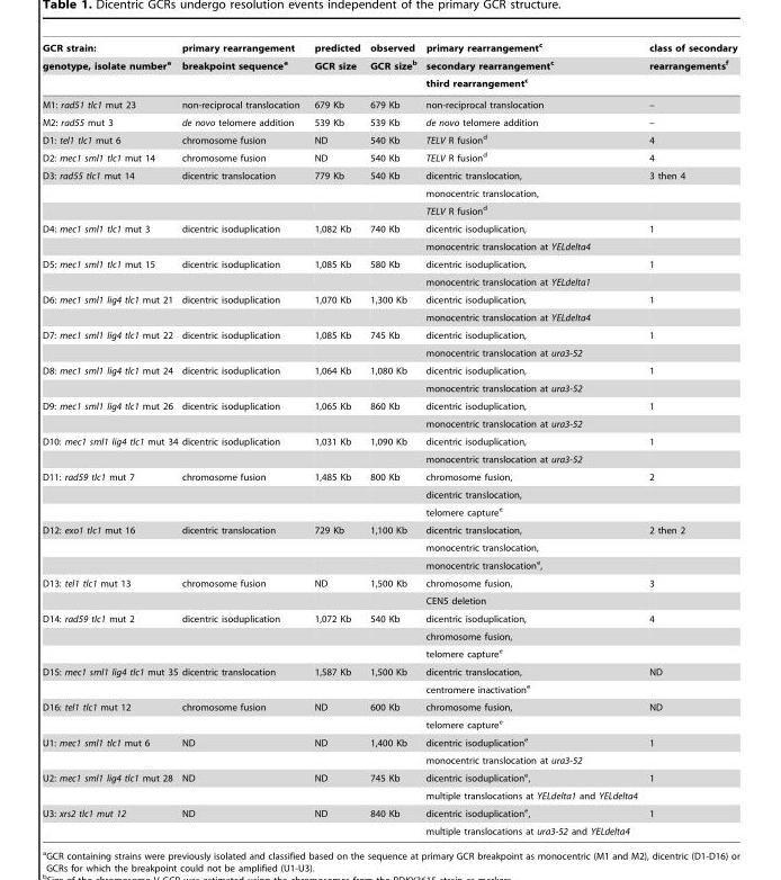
<table><thead><tr><td rowspan="3">GCR strain: genotype, isolate number<sup>a</sup></td><td rowspan="3">primary rearrangement breakpoint sequence<sup>a</sup></td><td rowspan="3">predicted GCR size</td><td rowspan="3">observed GCR size<sup>b</sup></td><td rowspan="3">primary rearrangement<sup>c</sup> secondary rearrangement<sup>c</sup> third rearrangement<sup>c</sup></td><td rowspan="3">class of secondary rearrangements<sup>f</sup></td></tr><tr></tr><tr></tr></thead><tbody><tr><td>M1: rad51 tlc1 mut 23</td><td>non-reciprocal translocation</td><td>679 Kb</td><td>679 Kb</td><td>non-reciprocal translocation</td><td>–</td></tr><tr><td>M2: rad55 mut 3</td><td>de novo telomere addition</td><td>539 Kb</td><td>539 Kb</td><td>de novo telomere addition</td><td>–</td></tr><tr><td>D1: tel1 tlc1 mut 6</td><td>chromosome fusion</td><td>ND</td><td>540 Kb</td><td>TELV R fusion<sup>d</sup></td><td>4</td></tr><tr><td>D2: mec1 sml1 tlc1 mut 14</td><td>chromosome fusion</td><td>ND</td><td>540 Kb</td><td>TELV R fusion<sup>d</sup></td><td>4</td></tr><tr><td rowspan="3">D3: rad55 tlc1 mut 14</td><td>dicentric translocation</td><td>779 Kb</td><td>540 Kb</td><td>dicentric translocation,</td><td>3 then 4</td></tr><tr><td></td><td></td><td></td><td>monocentric translocation,</td><td></td></tr><tr><td></td><td></td><td></td><td>TELV R fusion<sup>d</sup></td><td></td></tr><tr><td rowspan="2">D4: mec1 sml1 tlc1 mut 3</td><td>dicentric isoduplication</td><td>1,082 Kb</td><td>740 Kb</td><td>dicentric isoduplication,</td><td>1</td></tr><tr><td></td><td></td><td></td><td>monocentric translocation at YELdelta4</td><td></td></tr><tr><td rowspan="2">D5: mec1 sml1 tlc1 mut 15</td><td>dicentric isoduplication</td><td>1,085 Kb</td><td>580 Kb</td><td>dicentric isoduplication,</td><td>1</td></tr><tr><td></td><td></td><td></td><td>monocentric translocation at YELdelta1</td><td></td></tr><tr><td rowspan="2">D6: mec1 sml1 lig4 tlc1 mut 21</td><td>dicentric isoduplication</td><td>1,070 Kb</td><td>1,300 Kb</td><td>dicentric isoduplication,</td><td>1</td></tr><tr><td></td><td></td><td></td><td>monocentric translocation at YELdelta4</td><td></td></tr><tr><td rowspan="2">D7: mec1 sml1 lig4 tlc1 mut 22</td><td>dicentric isoduplication</td><td>1,085 Kb</td><td>745 Kb</td><td>dicentric isoduplication,</td><td>1</td></tr><tr><td></td><td></td><td></td><td>monocentric translocation at ura3-52</td><td></td></tr><tr><td rowspan="2">D8: mec1 sml1 lig4 tlc1 mut 24</td><td>dicentric isoduplication</td><td>1,064 Kb</td><td>1,080 Kb</td><td>dicentric isoduplication,</td><td>1</td></tr><tr><td></td><td></td><td></td><td>monocentric translocation at ura3-52</td><td></td></tr><tr><td rowspan="2">D9: mec1 sml1 lig4 tlc1 mut 26</td><td>dicentric isoduplication</td><td>1,065 Kb</td><td>860 Kb</td><td>dicentric isoduplication,</td><td>1</td></tr><tr><td></td><td></td><td></td><td>monocentric translocation at ura3-52</td><td></td></tr><tr><td rowspan="2">D10: mec1 sml1 lig4 tlc1 mut 34</td><td>dicentric isoduplication</td><td>1,031 Kb</td><td>1,090 Kb</td><td>dicentric isoduplication,</td><td>1</td></tr><tr><td></td><td></td><td></td><td>monocentric translocation at ura3-52</td><td></td></tr><tr><td rowspan="3">D11: rad59 tlc1 mut 7</td><td>chromosome fusion</td><td>1,485 Kb</td><td>800 Kb</td><td>chromosome fusion,</td><td>2</td></tr><tr><td></td><td></td><td></td><td>dicentric translocation,</td><td></td></tr><tr><td></td><td></td><td></td><td>telomere capture<sup>e</sup></td><td></td></tr><tr><td rowspan="3">D12: exo1 tlc1 mut 16</td><td>dicentric translocation</td><td>729 Kb</td><td>1,100 Kb</td><td>dicentric translocation,</td><td>2 then 2</td></tr><tr><td></td><td></td><td></td><td>monocentric translocation,</td><td></td></tr><tr><td></td><td></td><td></td><td>monocentric translocation<sup>e</sup>,</td><td></td></tr><tr><td rowspan="2">D13: tel1 tlc1 mut 13</td><td>chromosome fusion</td><td>ND</td><td>1,500 Kb</td><td>chromosome fusion,</td><td>3</td></tr><tr><td></td><td></td><td></td><td>CEN5 deletion</td><td></td></tr><tr><td rowspan="3">D14: rad59 tlc1 mut 2</td><td>dicentric isoduplication</td><td>1,072 Kb</td><td>540 Kb</td><td>dicentric isoduplication,</td><td>4</td></tr><tr><td></td><td></td><td></td><td>chromosome fusion,</td><td></td></tr><tr><td></td><td></td><td></td><td>telomere capture<sup>e</sup></td><td></td></tr><tr><td rowspan="2">D15: mec1 sml1 lig4 tlc1 mut 35</td><td>dicentric translocation</td><td>1,587 Kb</td><td>1,500 Kb</td><td>dicentric translocation,</td><td>ND</td></tr><tr><td></td><td></td><td></td><td>centromere inactivation<sup>e</sup></td><td></td></tr><tr><td rowspan="2">D16: tel1 tlc1 mut 12</td><td>chromosome fusion</td><td>ND</td><td>600 Kb</td><td>chromosome fusion,</td><td>ND</td></tr><tr><td></td><td></td><td></td><td>telomere capture<sup>e</sup></td><td></td></tr><tr><td rowspan="2">U1: mec1 sml1 tlc1 mut 6</td><td>ND</td><td>ND</td><td>1,400 Kb</td><td>dicentric isoduplication<sup>e</sup></td><td>1</td></tr><tr><td></td><td></td><td></td><td>monocentric translocation at ura3-52</td><td></td></tr><tr><td rowspan="2">U2: mec1 sml1 lig4 tlc1 mut 28</td><td>ND</td><td>ND</td><td>745 Kb</td><td>dicentric isoduplication<sup>e</sup>,</td><td>1</td></tr><tr><td></td><td></td><td></td><td>multiple translocations at YELdelta1 and YELdelta4</td><td></td></tr><tr><td rowspan="2">U3: xrs2 tlc1 mut 12</td><td>ND</td><td>ND</td><td>840 Kb</td><td>dicentric isoduplication<sup>e</sup>,</td><td>1</td></tr><tr><td></td><td></td><td></td><td>multiple translocations at ura3-52 and YELdelta4</td><td></td></tr></tbody></table>